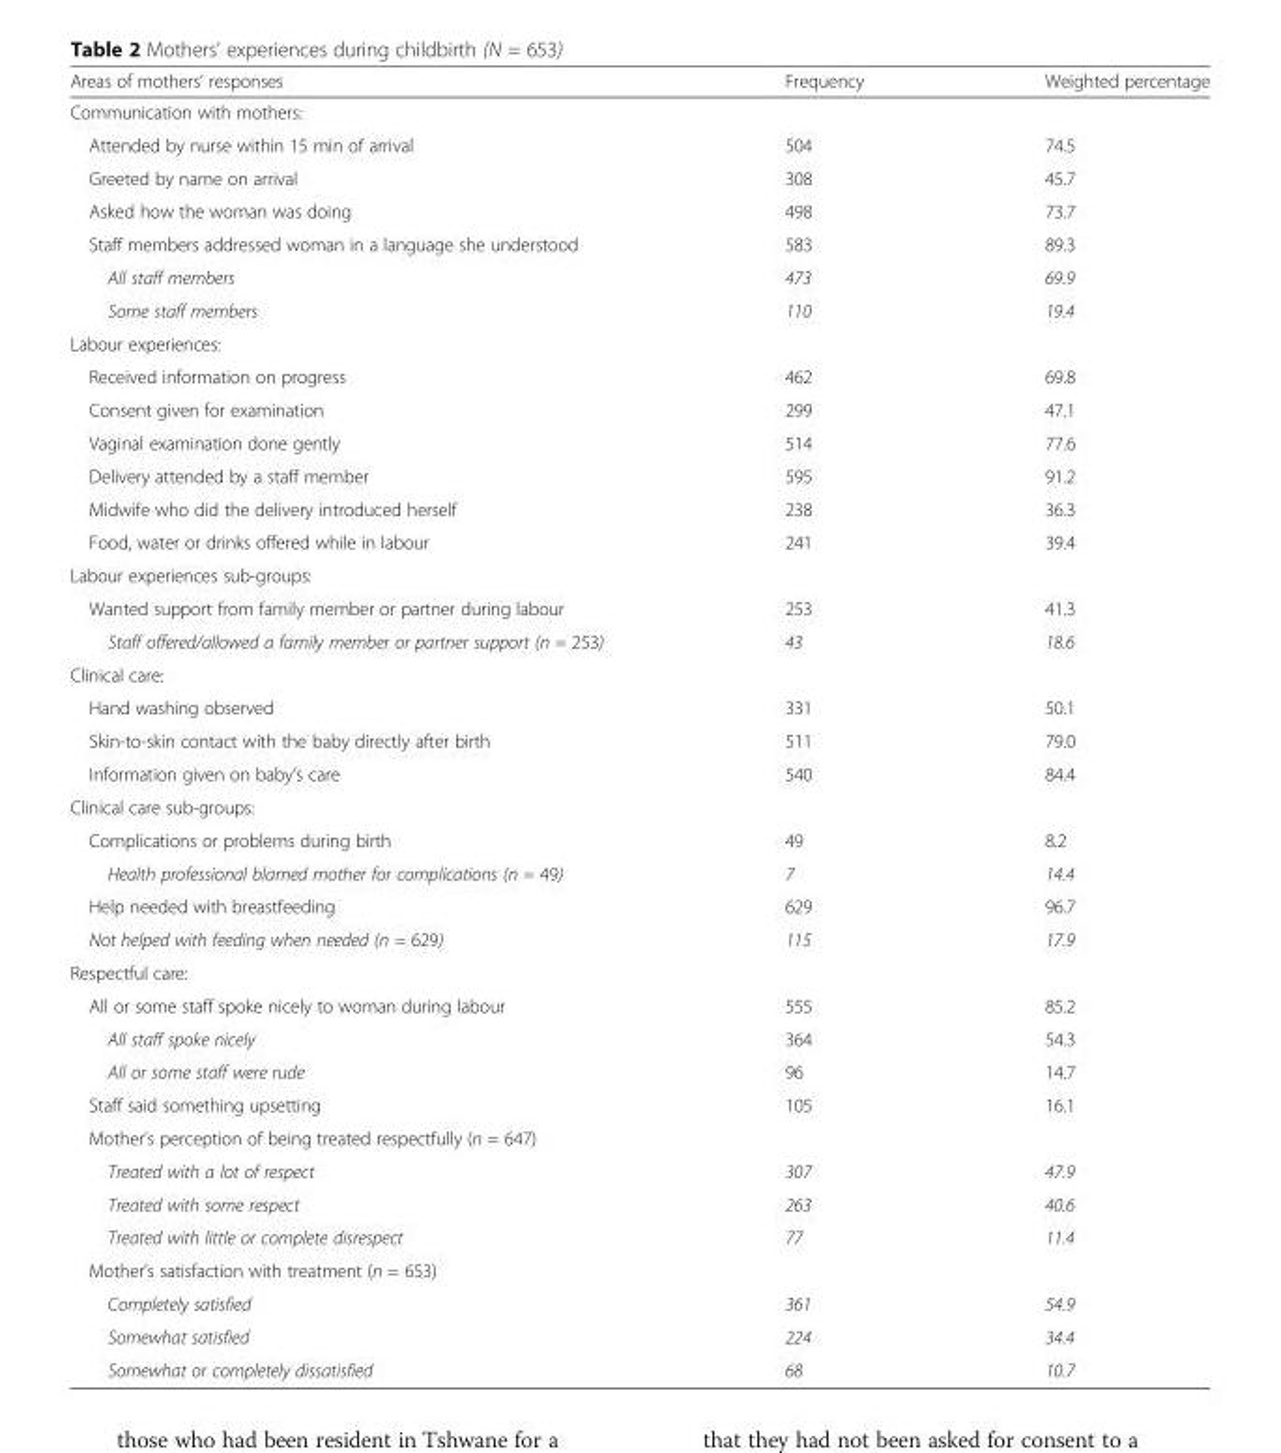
<table><thead><tr><td>Areas of mothers’ responses</td><td>Frequency</td><td>Weighted percentage</td></tr></thead><tbody><tr><td colspan="3">Communication with mothers:</td></tr><tr><td>Attended by nurse within 15 min of arrival</td><td>504</td><td>74.5</td></tr><tr><td>Greeted by name on arrival</td><td>308</td><td>45.7</td></tr><tr><td>Asked how the woman was doing</td><td>498</td><td>73.7</td></tr><tr><td>Staff members addressed woman in a language she understood</td><td>583</td><td>89.3</td></tr><tr><td>All staff members</td><td>473</td><td>69.9</td></tr><tr><td>Some staff members</td><td>110</td><td>19.4</td></tr><tr><td colspan="3">Labour experiences:</td></tr><tr><td>Received information on progress</td><td>462</td><td>69.8</td></tr><tr><td>Consent given for examination</td><td>299</td><td>47.1</td></tr><tr><td>Vaginal examination done gently</td><td>514</td><td>77.6</td></tr><tr><td>Delivery attended by a staff member</td><td>595</td><td>91.2</td></tr><tr><td>Midwife who did the delivery introduced herself</td><td>238</td><td>36.3</td></tr><tr><td>Food, water or drinks offered while in labour</td><td>241</td><td>39.4</td></tr><tr><td colspan="3">Labour experiences sub-groups:</td></tr><tr><td>Wanted support from family member or partner during labour</td><td>253</td><td>41.3</td></tr><tr><td>Staff offered/allowed a family member or partner support (n = 253)</td><td>43</td><td>18.6</td></tr><tr><td colspan="3">Clinical care:</td></tr><tr><td>Hand washing observed</td><td>331</td><td>50.1</td></tr><tr><td>Skin-to-skin contact with the baby directly after birth</td><td>511</td><td>79.0</td></tr><tr><td>Information given on baby’s care</td><td>540</td><td>84.4</td></tr><tr><td colspan="3">Clinical care sub-groups:</td></tr><tr><td>Complications or problems during birth</td><td>49</td><td>8.2</td></tr><tr><td>Health professional blamed mother for complications (n = 49)</td><td>7</td><td>14.4</td></tr><tr><td>Help needed with breastfeeding</td><td>629</td><td>96.7</td></tr><tr><td>Not helped with feeding when needed (n = 629)</td><td>115</td><td>17.9</td></tr><tr><td colspan="3">Respectful care:</td></tr><tr><td>All or some staff spoke nicely to woman during labour</td><td>555</td><td>85.2</td></tr><tr><td>All staff spoke nicely</td><td>364</td><td>54.3</td></tr><tr><td>All or some staff were rude</td><td>96</td><td>14.7</td></tr><tr><td>Staff said something upsetting</td><td>105</td><td>16.1</td></tr><tr><td colspan="3">Mother’s perception of being treated respectfully (n = 647)</td></tr><tr><td>Treated with a lot of respect</td><td>307</td><td>47.9</td></tr><tr><td>Treated with some respect</td><td>263</td><td>40.6</td></tr><tr><td>Treated with little or complete disrespect</td><td>77</td><td>11.4</td></tr><tr><td colspan="3">Mother’s satisfaction with treatment (n = 653)</td></tr><tr><td>Completely satisfied</td><td>361</td><td>54.9</td></tr><tr><td>Somewhat satisfied</td><td>224</td><td>34.4</td></tr><tr><td>Somewhat or completely dissatisfied</td><td>68</td><td>10.7</td></tr></tbody></table>